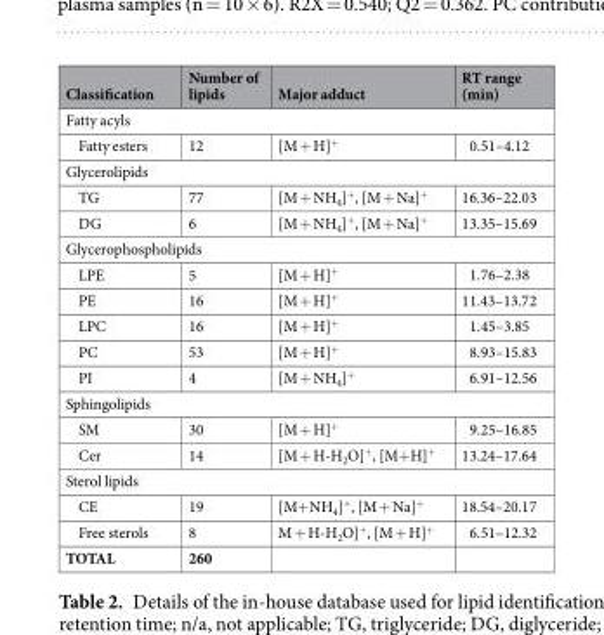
<table><thead><tr><td>Classification</td><td>Number of lipids</td><td>Major adduct</td><td>RT range (min)</td></tr></thead><tbody><tr><td colspan="4">Fatty acyls</td></tr><tr><td>Fatty esters</td><td>12</td><td>[M + H]<sup>+</sup></td><td>0.51–4.12</td></tr><tr><td colspan="4">Glycerolipids</td></tr><tr><td>TG</td><td>77</td><td>[M + NH<sub>4</sub>]<sup>+</sup>, [M + Na]<sup>+</sup></td><td>16.36–22.03</td></tr><tr><td>DG</td><td>6</td><td>[M + NH<sub>4</sub>]<sup>+</sup>, [M + Na]<sup>+</sup></td><td>13.35–15.69</td></tr><tr><td colspan="4">Glycerophospholipids</td></tr><tr><td>LPE</td><td>5</td><td>[M + H]<sup>+</sup></td><td>1.76–2.38</td></tr><tr><td>PE</td><td>16</td><td>[M + H]<sup>+</sup></td><td>11.43–13.72</td></tr><tr><td>LPC</td><td>16</td><td>[M + H]<sup>+</sup></td><td>1.45–3.85</td></tr><tr><td>PC</td><td>53</td><td>[M + H]<sup>+</sup></td><td>8.93–15.83</td></tr><tr><td>PI</td><td>4</td><td>[M + NH<sub>4</sub>]<sup>+</sup></td><td>6.91–12.56</td></tr><tr><td colspan="4">Sphingolipids</td></tr><tr><td>SM</td><td>30</td><td>[M + H]<sup>+</sup></td><td>9.25–16.85</td></tr><tr><td>Cer</td><td>14</td><td>[M + H-H<sub>2</sub>O]<sup>+</sup>, [M+H]<sup>+</sup></td><td>13.24–17.64</td></tr><tr><td colspan="4">Sterol lipids</td></tr><tr><td>CE</td><td>19</td><td>[M+NH<sub>4</sub>]<sup>+</sup>, [M + Na]<sup>+</sup></td><td>18.54–20.17</td></tr><tr><td>Free sterols</td><td>8</td><td>M + H-H<sub>2</sub>O]<sup>+</sup>, [M + H]<sup>+</sup></td><td>6.51–12.32</td></tr><tr><td>TOTAL</td><td>260</td><td></td><td></td></tr></tbody></table>